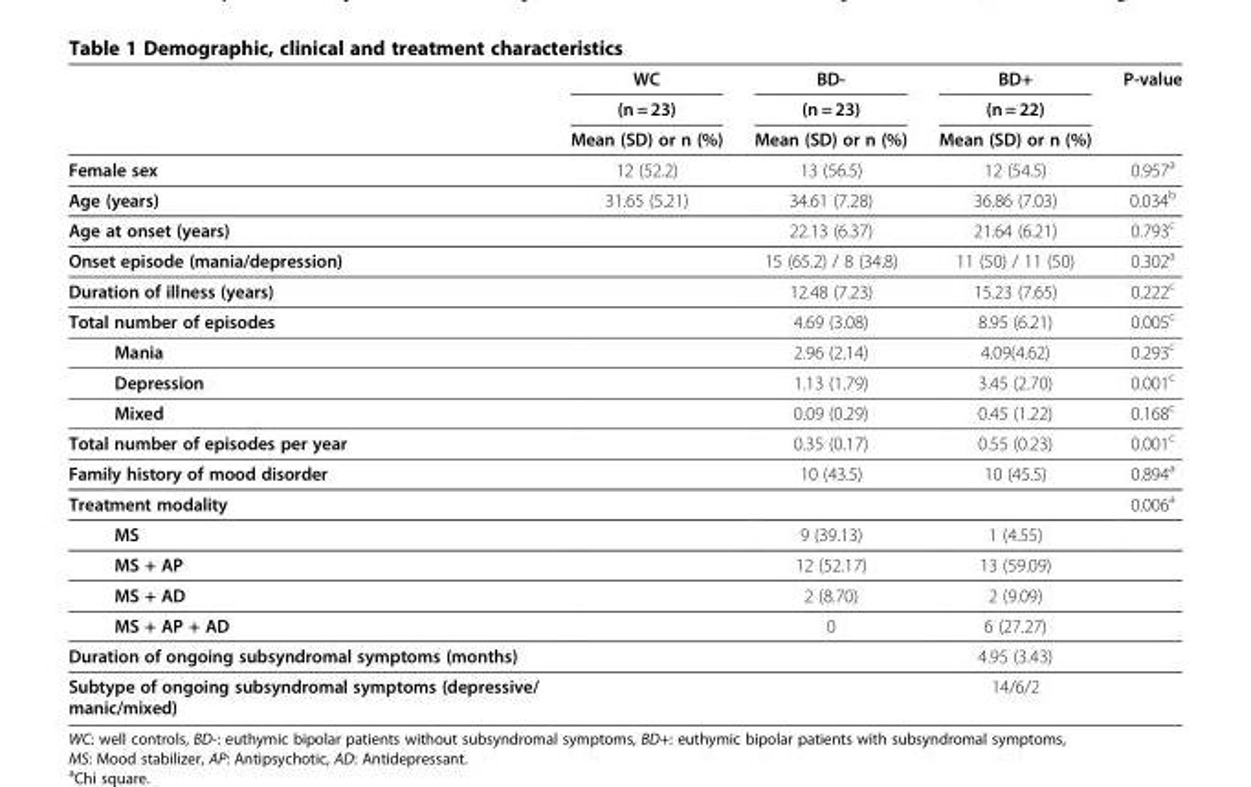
<table><thead><tr><td rowspan="3"></td><td rowspan="3">WC (n = 23) Mean (SD) or n (%)</td><td rowspan="3">BD- (n = 23) Mean (SD) or n (%)</td><td rowspan="3">BD+ (n = 22) Mean (SD) or n (%)</td><td rowspan="3">P-value</td></tr><tr></tr><tr></tr></thead><tbody><tr><td>Female sex</td><td>12 (52.2)</td><td>13 (56.5)</td><td>12 (54.5)</td><td>0.957<sup>a</sup></td></tr><tr><td>Age (years)</td><td>31.65 (5.21)</td><td>34.61 (7.28)</td><td>36.86 (7.03)</td><td>0.034<sup>b</sup></td></tr><tr><td>Age at onset (years)</td><td></td><td>22.13 (6.37)</td><td>21.64 (6.21)</td><td>0.793<sup>c</sup></td></tr><tr><td>Onset episode (mania/depression)</td><td></td><td>15 (65.2) / 8 (34.8)</td><td>11 (50) / 11 (50)</td><td>0.302<sup>a</sup></td></tr><tr><td>Duration of illness (years)</td><td></td><td>12.48 (7.23)</td><td>15.23 (7.65)</td><td>0.222<sup>c</sup></td></tr><tr><td>Total number of episodes</td><td></td><td>4.69 (3.08)</td><td>8.95 (6.21)</td><td>0.005<sup>c</sup></td></tr><tr><td>Mania</td><td></td><td>2.96 (2.14)</td><td>4.09(4.62)</td><td>0.293<sup>c</sup></td></tr><tr><td>Depression</td><td></td><td>1.13 (1.79)</td><td>3.45 (2.70)</td><td>0.001<sup>c</sup></td></tr><tr><td>Mixed</td><td></td><td>0.09 (0.29)</td><td>0.45 (1.22)</td><td>0.168<sup>c</sup></td></tr><tr><td>Total number of episodes per year</td><td></td><td>0.35 (0.17)</td><td>0.55 (0.23)</td><td>0.001<sup>c</sup></td></tr><tr><td>Family history of mood disorder</td><td></td><td>10 (43.5)</td><td>10 (45.5)</td><td>0.894<sup>a</sup></td></tr><tr><td>Treatment modality</td><td></td><td></td><td></td><td>0.006<sup>a</sup></td></tr><tr><td>MS</td><td></td><td>9 (39.13)</td><td>1 (4.55)</td><td></td></tr><tr><td>MS + AP</td><td></td><td>12 (52.17)</td><td>13 (59.09)</td><td></td></tr><tr><td>MS + AD</td><td></td><td>2 (8.70)</td><td>2 (9.09)</td><td></td></tr><tr><td>MS + AP + AD</td><td></td><td>0</td><td>6 (27.27)</td><td></td></tr><tr><td>Duration of ongoing subsyndromal symptoms (months)</td><td></td><td></td><td>4.95 (3.43)</td><td></td></tr><tr><td>Subtype of ongoing subsyndromal symptoms (depressive/ manic/mixed)</td><td></td><td></td><td>14/6/2</td><td></td></tr></tbody></table>